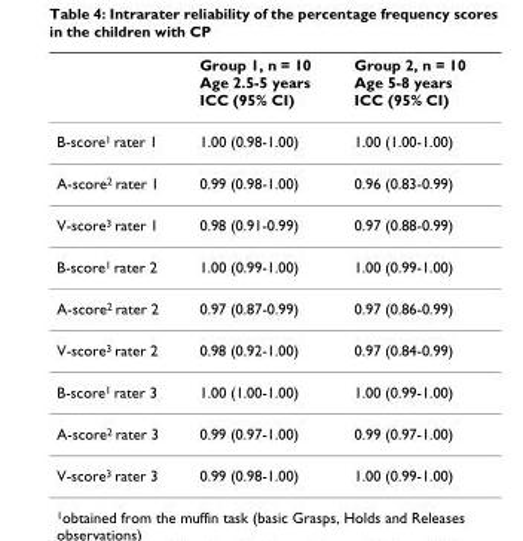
<table><thead><tr><td></td><td>Group 1, n = 10 Age 2.5-5 years ICC (95% CI)</td><td>Group 2, n = 10 Age 5-8 years ICC (95% CI)</td></tr></thead><tbody><tr><td>B-score<sup>1</sup> rater 1</td><td>1.00 (0.98-1.00)</td><td>1.00 (1.00-1.00)</td></tr><tr><td>A-score<sup>2</sup> rater 1</td><td>0.99 (0.98-1.00)</td><td>0.96 (0.83-0.99)</td></tr><tr><td>V-score<sup>3</sup> rater 1</td><td>0.98 (0.91-0.99)</td><td>0.97 (0.88-0.99)</td></tr><tr><td>B-score<sup>1</sup> rater 2</td><td>1.00 (0.99-1.00)</td><td>1.00 (0.99-1.00)</td></tr><tr><td>A-score<sup>2</sup> rater 2</td><td>0.97 (0.87-0.99)</td><td>0.97 (0.86-0.99)</td></tr><tr><td>V-score<sup>3</sup> rater 2</td><td>0.98 (0.92-1.00)</td><td>0.97 (0.84-0.99)</td></tr><tr><td>B-score<sup>1</sup> rater 3</td><td>1.00 (1.00-1.00)</td><td>1.00 (0.99-1.00)</td></tr><tr><td>A-score<sup>2</sup> rater 3</td><td>0.99 (0.97-1.00)</td><td>0.99 (0.97-1.00)</td></tr><tr><td>V-score<sup>3</sup> rater 3</td><td>0.99 (0.98-1.00)</td><td>1.00 (0.99-1.00)</td></tr></tbody></table>